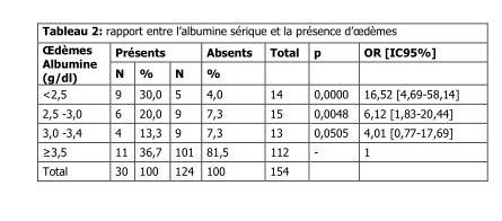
<table><thead><tr><td rowspan="2">Œdèmes Albumine (g/dl)</td><td colspan="3">Présents</td><td rowspan="2">Absents %</td><td rowspan="2">Total</td><td rowspan="2">p</td><td rowspan="2">OR [IC95%]</td></tr><tr><td>N</td><td>%</td><td>N</td></tr></thead><tbody><tr><td>&lt;2,5</td><td>9</td><td>30,0</td><td>5</td><td>4,0</td><td>14</td><td>0,0000</td><td>16,52 [4,69-58,14]</td></tr><tr><td>2,5 -3,0</td><td>6</td><td>20,0</td><td>9</td><td>7,3</td><td>15</td><td>0,0048</td><td>6,12 [1,83-20,44]</td></tr><tr><td>3,0 -3,4</td><td>4</td><td>13,3</td><td>9</td><td>7,3</td><td>13</td><td>0,0505</td><td>4,01 [0,77-17,69]</td></tr><tr><td>≥3,5</td><td>11</td><td>36,7</td><td>101</td><td>81,5</td><td>112</td><td>-</td><td>1</td></tr><tr><td>Total</td><td>30</td><td>100</td><td>124</td><td>100</td><td>154</td><td></td><td></td></tr></tbody></table>